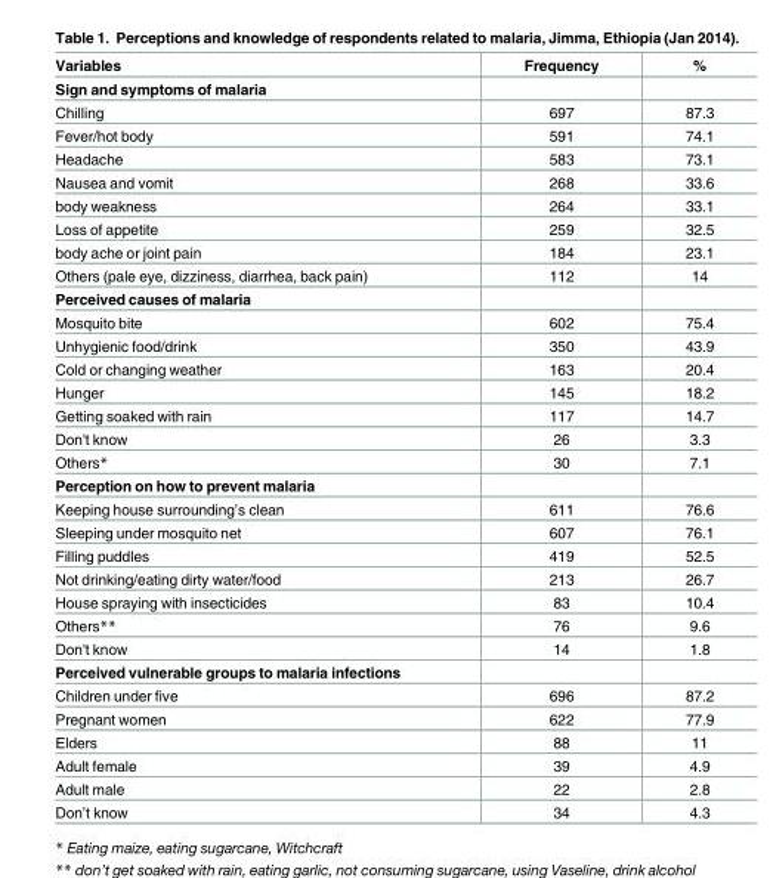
<table><thead><tr><td>Variables</td><td>Frequency</td><td>%</td></tr></thead><tbody><tr><td colspan="3">Sign and symptoms of malaria</td></tr><tr><td>Chilling</td><td>697</td><td>87.3</td></tr><tr><td>Fever/hot body</td><td>591</td><td>74.1</td></tr><tr><td>Headache</td><td>583</td><td>73.1</td></tr><tr><td>Nausea and vomit</td><td>268</td><td>33.6</td></tr><tr><td>body weakness</td><td>264</td><td>33.1</td></tr><tr><td>Loss of appetite</td><td>259</td><td>32.5</td></tr><tr><td>body ache or joint pain</td><td>184</td><td>23.1</td></tr><tr><td>Others (pale eye, dizziness, diarrhea, back pain)</td><td>112</td><td>14</td></tr><tr><td colspan="3">Perceived causes of malaria</td></tr><tr><td>Mosquito bite</td><td>602</td><td>75.4</td></tr><tr><td>Unhygienic food/drink</td><td>350</td><td>43.9</td></tr><tr><td>Cold or changing weather</td><td>163</td><td>20.4</td></tr><tr><td>Hunger</td><td>145</td><td>18.2</td></tr><tr><td>Getting soaked with rain</td><td>117</td><td>14.7</td></tr><tr><td>Don&#x27;t know</td><td>26</td><td>3.3</td></tr><tr><td>Others*</td><td>30</td><td>7.1</td></tr><tr><td colspan="3">Perception on how to prevent malaria</td></tr><tr><td>Keeping house surrounding’s clean</td><td>611</td><td>76.6</td></tr><tr><td>Sleeping under mosquito net</td><td>607</td><td>76.1</td></tr><tr><td>Filling puddles</td><td>419</td><td>52.5</td></tr><tr><td>Not drinking/eating dirty water/food</td><td>213</td><td>26.7</td></tr><tr><td>House spraying with insecticides</td><td>83</td><td>10.4</td></tr><tr><td>Others**</td><td>76</td><td>9.6</td></tr><tr><td>Don&#x27;t know</td><td>14</td><td>1.8</td></tr><tr><td colspan="3">Perceived vulnerable groups to malaria infections</td></tr><tr><td>Children under five</td><td>696</td><td>87.2</td></tr><tr><td>Pregnant women</td><td>622</td><td>77.9</td></tr><tr><td>Elders</td><td>88</td><td>11</td></tr><tr><td>Adult female</td><td>39</td><td>4.9</td></tr><tr><td>Adult male</td><td>22</td><td>2.8</td></tr><tr><td>Don’t know</td><td>34</td><td>4.3</td></tr></tbody></table>